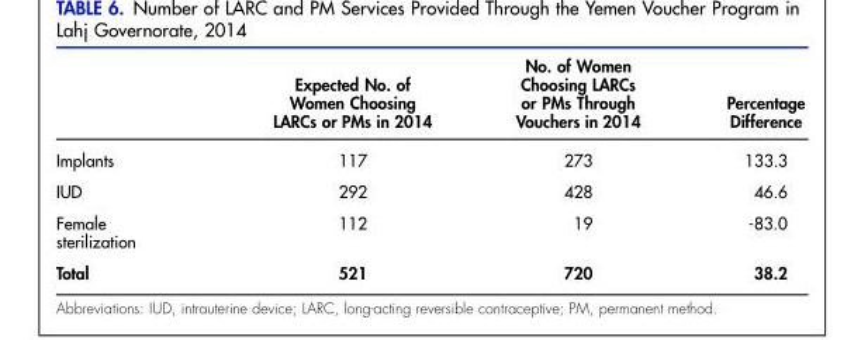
<table><thead><tr><td></td><td>Expected No. of Women Choosing LARCs or PMs in 2014</td><td>No. of Women Choosing LARCs or PMs Through Vouchers in 2014</td><td>Percentage Difference</td></tr></thead><tbody><tr><td>Implants</td><td>117</td><td>273</td><td>133.3</td></tr><tr><td>IUD</td><td>292</td><td>428</td><td>46.6</td></tr><tr><td>Female sterilization</td><td>112</td><td>19</td><td>-83.0</td></tr><tr><td>Total</td><td>521</td><td>720</td><td>38.2</td></tr></tbody></table>